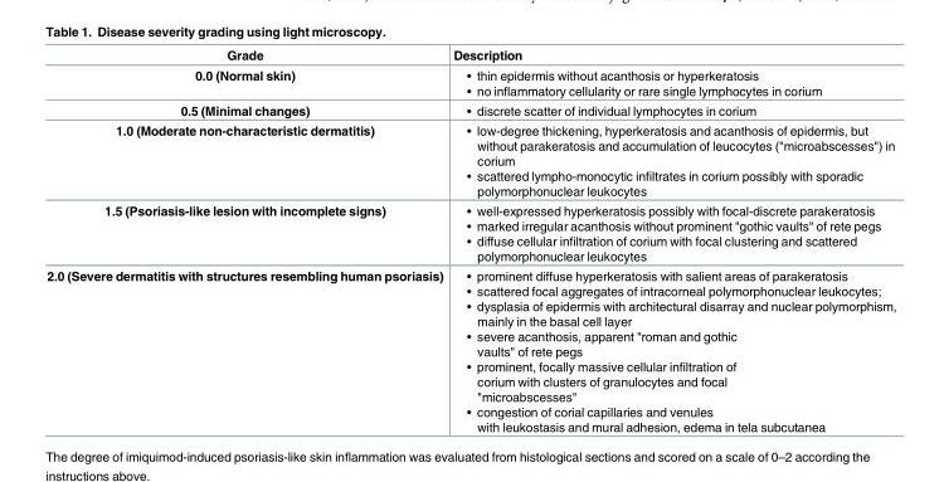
<table><thead><tr><td>Grade</td><td>Description</td></tr></thead><tbody><tr><td>0.0 (Normal skin)</td><td>• thin epidermis without acanthosis or hyperkeratosis • no inflammatory cellularity or rare single lymphocytes in corium</td></tr><tr><td>0.5 (Minimal changes)</td><td>• discrete scatter of individual lymphocytes in corium</td></tr><tr><td>1.0 (Moderate non-characteristic dermatitis)</td><td>• low-degree thickening, hyperkeratosis and acanthosis of epidermis, but without parakeratosis and accumulation of leucocytes (&quot;microabscesses&quot;) in corium • scattered lympho-monocytic infiltrates in corium possibly with sporadic polymorphonuclear leukocytes</td></tr><tr><td>1.5 (Psoriasis-like lesion with incomplete signs)</td><td>• well-expressed hyperkeratosis possibly with focal-discrete parakeratosis • marked irregular acanthosis without prominent &quot;gothic vaults&quot; of rete pegs • diffuse cellular infiltration of corium with focal clustering and scattered polymorphonuclear leukocytes</td></tr><tr><td>2.0 (Severe dermatitis with structures resembling human psoriasis)</td><td>• prominent diffuse hyperkeratosis with salient areas of parakeratosis • scattered focal aggregates of intracorneal polymorphonuclear leukocytes; • dysplasia of epidermis with architectural disarray and nuclear polymorphism, mainly in the basal cell layer • severe acanthosis, apparent &quot;roman and gothic vaults&quot; of rete pegs • prominent, focally massive cellular infiltration of corium with clusters of granulocytes and focal &quot;microabscesses&quot; • congestion of corial capillaries and venules with leukostasis and mural adhesion, edema in tela subcutanea</td></tr></tbody></table>